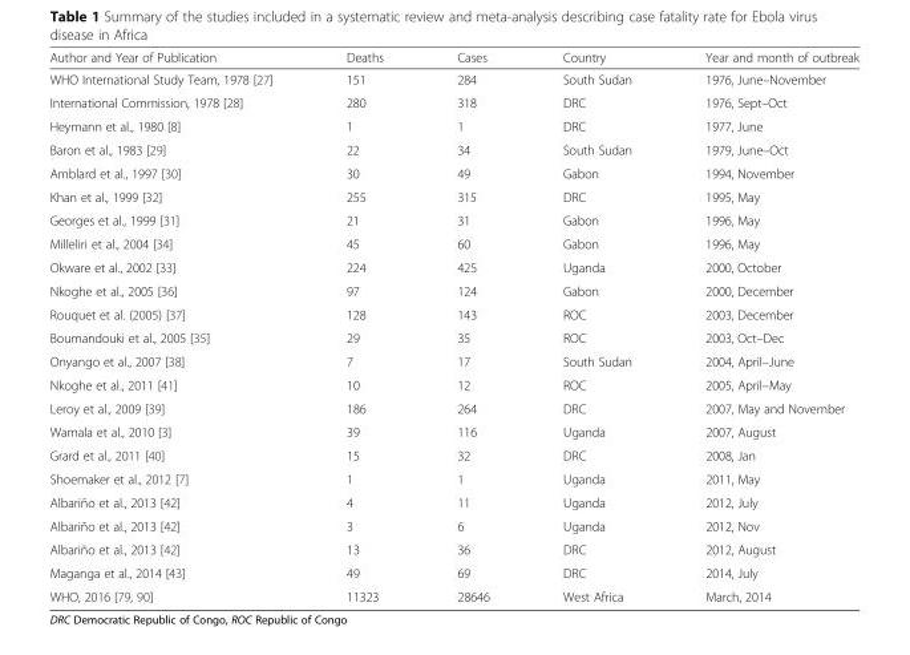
<table><thead><tr><td>Author and Year of Publication</td><td>Deaths</td><td>Cases</td><td>Country</td><td>Year and month of outbreak</td></tr></thead><tbody><tr><td>WHO International Study Team, 1978 [27]</td><td>151</td><td>284</td><td>South Sudan</td><td>1976, June–November</td></tr><tr><td>International Commission, 1978 [28]</td><td>280</td><td>318</td><td>DRC</td><td>1976, Sept–Oct</td></tr><tr><td>Heymann et al., 1980 [8]</td><td>1</td><td>1</td><td>DRC</td><td>1977, June</td></tr><tr><td>Baron et al., 1983 [29]</td><td>22</td><td>34</td><td>South Sudan</td><td>1979, June–Oct</td></tr><tr><td>Amblard et al., 1997 [30]</td><td>30</td><td>49</td><td>Gabon</td><td>1994, November</td></tr><tr><td>Khan et al., 1999 [32]</td><td>255</td><td>315</td><td>DRC</td><td>1995, May</td></tr><tr><td>Georges et al., 1999 [31]</td><td>21</td><td>31</td><td>Gabon</td><td>1996, May</td></tr><tr><td>Milleliri et al., 2004 [34]</td><td>45</td><td>60</td><td>Gabon</td><td>1996, May</td></tr><tr><td>Okware et al., 2002 [33]</td><td>224</td><td>425</td><td>Uganda</td><td>2000, October</td></tr><tr><td>Nkoghe et al., 2005 [36]</td><td>97</td><td>124</td><td>Gabon</td><td>2000, December</td></tr><tr><td>Rouquet et al. (2005) [37]</td><td>128</td><td>143</td><td>ROC</td><td>2003, December</td></tr><tr><td>Boumandouki et al., 2005 [35]</td><td>29</td><td>35</td><td>ROC</td><td>2003, Oct–Dec</td></tr><tr><td>Onyango et al., 2007 [38]</td><td>7</td><td>17</td><td>South Sudan</td><td>2004, April–June</td></tr><tr><td>Nkoghe et al., 2011 [41]</td><td>10</td><td>12</td><td>ROC</td><td>2005, April–May</td></tr><tr><td>Leroy et al., 2009 [39]</td><td>186</td><td>264</td><td>DRC</td><td>2007, May and November</td></tr><tr><td>Wamala et al., 2010 [3]</td><td>39</td><td>116</td><td>Uganda</td><td>2007, August</td></tr><tr><td>Grard et al., 2011 [40]</td><td>15</td><td>32</td><td>DRC</td><td>2008, Jan</td></tr><tr><td>Shoemaker et al., 2012 [7]</td><td>1</td><td>1</td><td>Uganda</td><td>2011, May</td></tr><tr><td>Albariño et al., 2013 [42]</td><td>4</td><td>11</td><td>Uganda</td><td>2012, July</td></tr><tr><td>Albariño et al., 2013 [42]</td><td>3</td><td>6</td><td>Uganda</td><td>2012, Nov</td></tr><tr><td>Albariño et al., 2013 [42]</td><td>13</td><td>36</td><td>DRC</td><td>2012, August</td></tr><tr><td>Maganga et al., 2014 [43]</td><td>49</td><td>69</td><td>DRC</td><td>2014, July</td></tr><tr><td>WHO, 2016 [79, 90]</td><td>11323</td><td>28646</td><td>West Africa</td><td>March, 2014</td></tr></tbody></table>